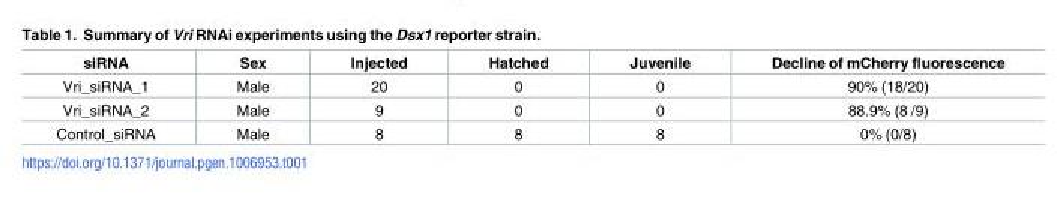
<table><thead><tr><td>siRNA</td><td>Sex</td><td>Injected</td><td>Hatched</td><td>Juvenile</td><td>Decline of mCherry fluorescence</td></tr></thead><tbody><tr><td>Vri_siRNA_1</td><td>Male</td><td>20</td><td>0</td><td>0</td><td>90% (18/20)</td></tr><tr><td>Vri_siRNA_2</td><td>Male</td><td>9</td><td>0</td><td>0</td><td>88.9% (8 /9)</td></tr><tr><td>Control_siRNA</td><td>Male</td><td>8</td><td>8</td><td>8</td><td>0% (0/8)</td></tr></tbody></table>